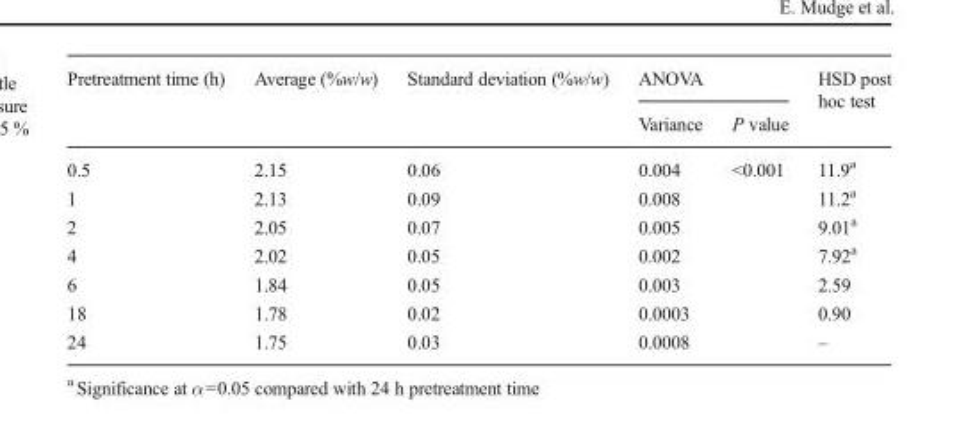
<table><thead><tr><td rowspan="2">Pretreatment time (h)</td><td rowspan="2">Average (%w/w)</td><td rowspan="2">Standard deviation (%w/w)</td><td colspan="2">ANOVA</td><td rowspan="2">HSD post hoc test</td></tr><tr><td>Variance</td><td>P value</td></tr></thead><tbody><tr><td>0.5</td><td>2.15</td><td>0.06</td><td>0.004</td><td rowspan="7">&lt;0.001</td><td>11.9<sup>a</sup></td></tr><tr><td>1</td><td>2.13</td><td>0.09</td><td>0.008</td><td>11.2<sup>a</sup></td></tr><tr><td>2</td><td>2.05</td><td>0.07</td><td>0.005</td><td>9.01<sup>a</sup></td></tr><tr><td>4</td><td>2.02</td><td>0.05</td><td>0.002</td><td>7.92<sup>a</sup></td></tr><tr><td>6</td><td>1.84</td><td>0.05</td><td>0.003</td><td>2.59</td></tr><tr><td>18</td><td>1.78</td><td>0.02</td><td>0.0003</td><td>0.90</td></tr><tr><td>24</td><td>1.75</td><td>0.03</td><td>0.0008</td><td>–</td></tr></tbody></table>